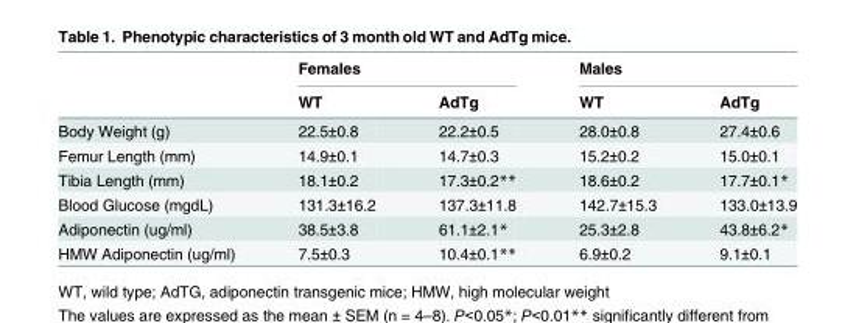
<table><thead><tr><td rowspan="2"></td><td colspan="2">Females</td><td colspan="2">Males</td></tr><tr><td>WT</td><td>AdTg</td><td>WT</td><td>AdTg</td></tr></thead><tbody><tr><td>Body Weight (g)</td><td>22.5±0.8</td><td>22.2±0.5</td><td>28.0±0.8</td><td>27.4±0.6</td></tr><tr><td>Femur Length (mm)</td><td>14.9±0.1</td><td>14.7±0.3</td><td>15.2±0.2</td><td>15.0±0.1</td></tr><tr><td>Tibia Length (mm)</td><td>18.1±0.2</td><td>17.3±0.2**</td><td>18.6±0.2</td><td>17.7±0.1*</td></tr><tr><td>Blood Glucose (mgdL)</td><td>131.3±16.2</td><td>137.3±11.8</td><td>142.7±15.3</td><td>133.0±13.9</td></tr><tr><td>Adiponectin (ug/ml)</td><td>38.5±3.8</td><td>61.1±2.1*</td><td>25.3±2.8</td><td>43.8±6.2*</td></tr><tr><td>HMW Adiponectin (ug/ml)</td><td>7.5±0.3</td><td>10.4±0.1**</td><td>6.9±0.2</td><td>9.1±0.1</td></tr></tbody></table>